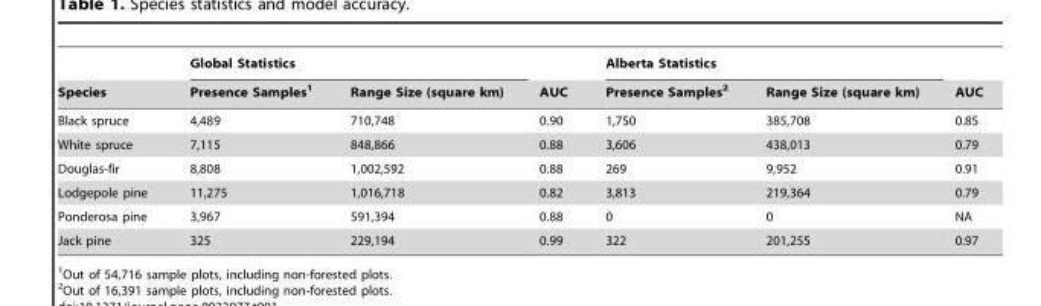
<table><thead><tr><td rowspan="2">Species</td><td colspan="2">Global Statistics</td><td rowspan="2">AUC</td><td colspan="2">Alberta Statistics</td><td rowspan="2">AUC</td></tr><tr><td>Presence Samples<sup>1</sup></td><td>Range Size (square km)</td><td>Presence Samples<sup>2</sup></td><td>Range Size (square km)</td></tr></thead><tbody><tr><td>Black spruce</td><td>4,489</td><td>710,748</td><td>0.90</td><td>1,750</td><td>385,708</td><td>0.85</td></tr><tr><td>White spruce</td><td>7,115</td><td>848,866</td><td>0.88</td><td>3,606</td><td>438,013</td><td>0.79</td></tr><tr><td>Douglas-fir</td><td>8,808</td><td>1,002,592</td><td>0.88</td><td>269</td><td>9,952</td><td>0.91</td></tr><tr><td>Lodgepole pine</td><td>11,275</td><td>1,016,718</td><td>0.82</td><td>3,813</td><td>219,364</td><td>0.79</td></tr><tr><td>Ponderosa pine</td><td>3,967</td><td>591,394</td><td>0.88</td><td>0</td><td>0</td><td>NA</td></tr><tr><td>Jack pine</td><td>325</td><td>229,194</td><td>0.99</td><td>322</td><td>201,255</td><td>0.97</td></tr></tbody></table>